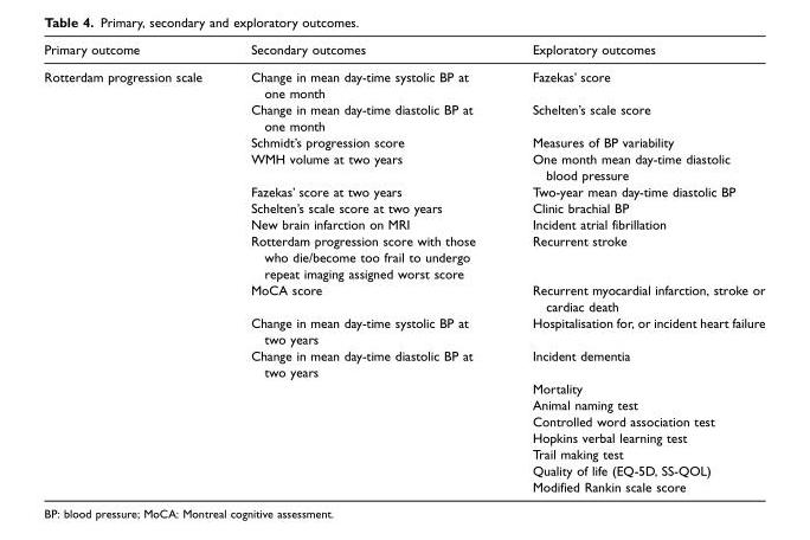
<table><thead><tr><td>Primary outcome</td><td>Secondary outcomes</td><td>Exploratory outcomes</td></tr></thead><tbody><tr><td rowspan="18">Rotterdam progression scale</td><td>Change in mean day-time systolic BP at one month</td><td>Fazekas’ score</td></tr><tr><td>Change in mean day-time diastolic BP at one month</td><td>Schelten’s scale score</td></tr><tr><td>Schmidt’s progression score</td><td>Measures of BP variability</td></tr><tr><td>WMH volume at two years</td><td>One month mean day-time diastolic blood pressure</td></tr><tr><td>Fazekas’ score at two years</td><td>Two-year mean day-time diastolic BP</td></tr><tr><td>Schelten’s scale score at two years</td><td>Clinic brachial BP</td></tr><tr><td>New brain infarction on MRI</td><td>Incident atrial fibrillation</td></tr><tr><td>Rotterdam progression score with those who die/become too frail to undergo repeat imaging assigned worst score</td><td>Recurrent stroke</td></tr><tr><td>MoCA score</td><td>Recurrent myocardial infarction, stroke or cardiac death</td></tr><tr><td>Change in mean day-time systolic BP at two years</td><td>Hospitalisation for, or incident heart failure</td></tr><tr><td>Change in mean day-time diastolic BP at two years</td><td>Incident dementia</td></tr><tr><td></td><td>Mortality</td></tr><tr><td></td><td>Animal naming test</td></tr><tr><td></td><td>Controlled word association test</td></tr><tr><td></td><td>Hopkins verbal learning test</td></tr><tr><td></td><td>Trail making test</td></tr><tr><td></td><td>Quality of life (EQ-5D, SS-QOL)</td></tr><tr><td></td><td>Modified Rankin scale score</td></tr></tbody></table>